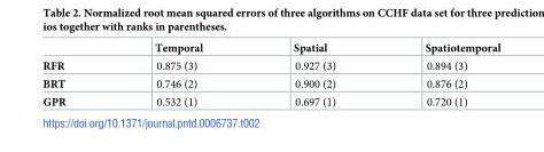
<table><thead><tr><td></td><td>Temporal</td><td>Spatial</td><td>Spatiotemporal</td></tr></thead><tbody><tr><td>RFR</td><td>0.875 (3)</td><td>0.927 (3)</td><td>0.894 (3)</td></tr><tr><td>BRT</td><td>0.746 (2)</td><td>0.900 (2)</td><td>0.876 (2)</td></tr><tr><td>GPR</td><td>0.532 (1)</td><td>0.697 (1)</td><td>0.720 (1)</td></tr></tbody></table>